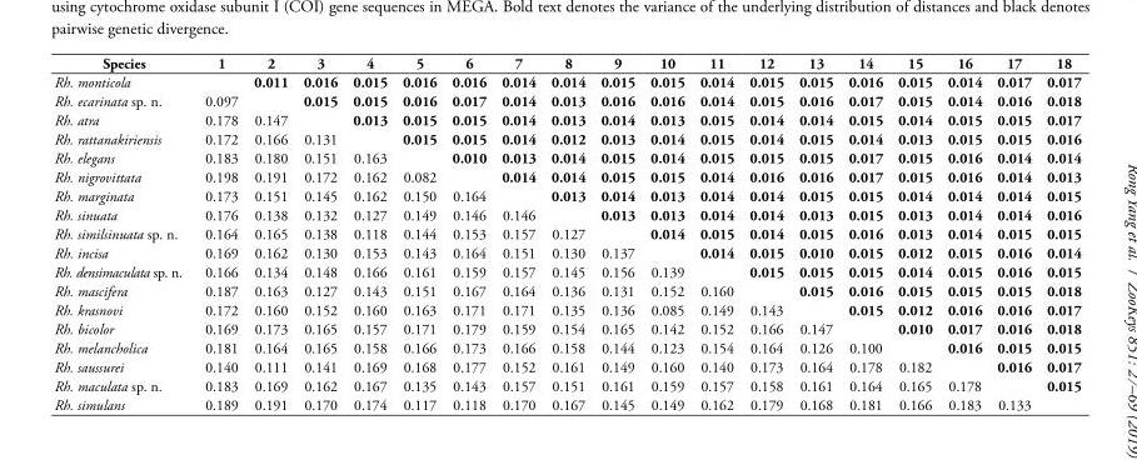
<table><thead><tr><td>Species</td><td>1</td><td>2</td><td>3</td><td>4</td><td>5</td><td>6</td><td>7</td><td>8</td><td>9</td><td>10</td><td>11</td><td>12</td><td>13</td><td>14</td><td>15</td><td>16</td><td>17</td><td>18</td></tr></thead><tbody><tr><td>Rh. monticola</td><td></td><td>0.011</td><td>0.016</td><td>0.015</td><td>0.016</td><td>0.016</td><td>0.014</td><td>0.014</td><td>0.015</td><td>0.015</td><td>0.014</td><td>0.015</td><td>0.015</td><td>0.016</td><td>0.015</td><td>0.014</td><td>0.017</td><td>0.017</td></tr><tr><td>Rh. ecarinata sp. n.</td><td>0.097</td><td></td><td>0.015</td><td>0.015</td><td>0.016</td><td>0.017</td><td>0.014</td><td>0.013</td><td>0.016</td><td>0.016</td><td>0.014</td><td>0.015</td><td>0.016</td><td>0.017</td><td>0.015</td><td>0.014</td><td>0.016</td><td>0.018</td></tr><tr><td>Rh. atra</td><td>0.178</td><td>0.147</td><td></td><td>0.013</td><td>0.015</td><td>0.015</td><td>0.014</td><td>0.013</td><td>0.014</td><td>0.013</td><td>0.015</td><td>0.014</td><td>0.014</td><td>0.015</td><td>0.014</td><td>0.015</td><td>0.015</td><td>0.017</td></tr><tr><td>Rh. rattanakiriensis</td><td>0.172</td><td>0.166</td><td>0.131</td><td></td><td>0.015</td><td>0.015</td><td>0.014</td><td>0.012</td><td>0.013</td><td>0.014</td><td>0.015</td><td>0.014</td><td>0.015</td><td>0.014</td><td>0.013</td><td>0.015</td><td>0.015</td><td>0.016</td></tr><tr><td>Rh. elegans</td><td>0.183</td><td>0.180</td><td>0.151</td><td>0.163</td><td></td><td>0.010</td><td>0.013</td><td>0.014</td><td>0.015</td><td>0.014</td><td>0.015</td><td>0.015</td><td>0.015</td><td>0.017</td><td>0.015</td><td>0.016</td><td>0.014</td><td>0.014</td></tr><tr><td>Rh. nigrovittata</td><td>0.198</td><td>0.191</td><td>0.172</td><td>0.162</td><td>0.082</td><td></td><td>0.014</td><td>0.014</td><td>0.015</td><td>0.015</td><td>0.014</td><td>0.016</td><td>0.016</td><td>0.017</td><td>0.015</td><td>0.016</td><td>0.014</td><td>0.013</td></tr><tr><td>Rh. marginata</td><td>0.173</td><td>0.151</td><td>0.145</td><td>0.162</td><td>0.150</td><td>0.164</td><td></td><td>0.013</td><td>0.014</td><td>0.013</td><td>0.014</td><td>0.014</td><td>0.015</td><td>0.015</td><td>0.014</td><td>0.014</td><td>0.014</td><td>0.015</td></tr><tr><td>Rh. sinuata</td><td>0.176</td><td>0.138</td><td>0.132</td><td>0.127</td><td>0.149</td><td>0.146</td><td>0.146</td><td></td><td>0.013</td><td>0.013</td><td>0.014</td><td>0.014</td><td>0.013</td><td>0.015</td><td>0.013</td><td>0.014</td><td>0.014</td><td>0.016</td></tr><tr><td>Rh. similsinuata sp. n.</td><td>0.164</td><td>0.165</td><td>0.138</td><td>0.118</td><td>0.144</td><td>0.153</td><td>0.157</td><td>0.127</td><td></td><td>0.014</td><td>0.015</td><td>0.014</td><td>0.015</td><td>0.016</td><td>0.013</td><td>0.014</td><td>0.015</td><td>0.015</td></tr><tr><td>Rh. incisa</td><td>0.169</td><td>0.162</td><td>0.130</td><td>0.153</td><td>0.143</td><td>0.164</td><td>0.151</td><td>0.130</td><td>0.137</td><td></td><td>0.014</td><td>0.015</td><td>0.010</td><td>0.015</td><td>0.012</td><td>0.015</td><td>0.016</td><td>0.014</td></tr><tr><td>Rh. densimaculata sp. n.</td><td>0.166</td><td>0.134</td><td>0.148</td><td>0.166</td><td>0.161</td><td>0.159</td><td>0.157</td><td>0.145</td><td>0.156</td><td>0.139</td><td></td><td>0.015</td><td>0.015</td><td>0.015</td><td>0.014</td><td>0.015</td><td>0.016</td><td>0.015</td></tr><tr><td>Rh. mascifera</td><td>0.187</td><td>0.163</td><td>0.127</td><td>0.143</td><td>0.151</td><td>0.167</td><td>0.164</td><td>0.136</td><td>0.131</td><td>0.152</td><td>0.160</td><td></td><td>0.015</td><td>0.016</td><td>0.015</td><td>0.015</td><td>0.015</td><td>0.018</td></tr><tr><td>Rh. krasnovi</td><td>0.172</td><td>0.160</td><td>0.152</td><td>0.160</td><td>0.163</td><td>0.171</td><td>0.171</td><td>0.135</td><td>0.136</td><td>0.085</td><td>0.149</td><td>0.143</td><td></td><td>0.015</td><td>0.012</td><td>0.016</td><td>0.016</td><td>0.017</td></tr><tr><td>Rh. bicolor</td><td>0.169</td><td>0.173</td><td>0.165</td><td>0.157</td><td>0.171</td><td>0.179</td><td>0.159</td><td>0.154</td><td>0.165</td><td>0.142</td><td>0.152</td><td>0.166</td><td>0.147</td><td></td><td>0.010</td><td>0.017</td><td>0.016</td><td>0.018</td></tr><tr><td>Rh. melancholica</td><td>0.181</td><td>0.164</td><td>0.165</td><td>0.158</td><td>0.166</td><td>0.173</td><td>0.166</td><td>0.158</td><td>0.144</td><td>0.123</td><td>0.154</td><td>0.164</td><td>0.126</td><td>0.100</td><td></td><td>0.016</td><td>0.015</td><td>0.015</td></tr><tr><td>Rh. saussurei</td><td>0.140</td><td>0.111</td><td>0.141</td><td>0.169</td><td>0.168</td><td>0.177</td><td>0.152</td><td>0.161</td><td>0.149</td><td>0.160</td><td>0.140</td><td>0.173</td><td>0.164</td><td>0.178</td><td>0.182</td><td></td><td>0.016</td><td>0.017</td></tr><tr><td>Rh. maculata sp. n.</td><td>0.183</td><td>0.169</td><td>0.162</td><td>0.167</td><td>0.135</td><td>0.143</td><td>0.157</td><td>0.151</td><td>0.161</td><td>0.159</td><td>0.157</td><td>0.158</td><td>0.161</td><td>0.164</td><td>0.165</td><td>0.178</td><td></td><td>0.015</td></tr><tr><td>Rh. simulans</td><td>0.189</td><td>0.191</td><td>0.170</td><td>0.174</td><td>0.117</td><td>0.118</td><td>0.170</td><td>0.167</td><td>0.145</td><td>0.149</td><td>0.162</td><td>0.179</td><td>0.168</td><td>0.181</td><td>0.166</td><td>0.183</td><td>0.133</td><td></td></tr></tbody></table>